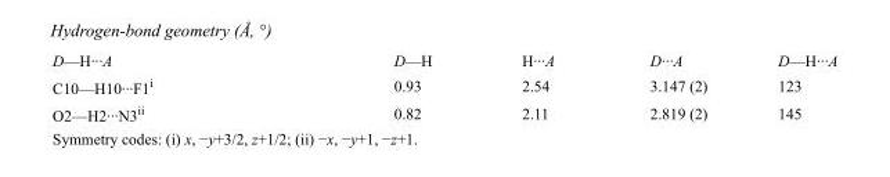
<table><tbody><tr><td>D—H···A</td><td>D—H</td><td>H···A</td><td>D···A</td><td>D—H···A</td></tr><tr><td>C10—H10···F1<sup>i</sup></td><td>0.93</td><td>2.54</td><td>3.147 (2)</td><td>123</td></tr><tr><td>O2—H2···N3<sup>ii</sup></td><td>0.82</td><td>2.11</td><td>2.819 (2)</td><td>145</td></tr></tbody></table>